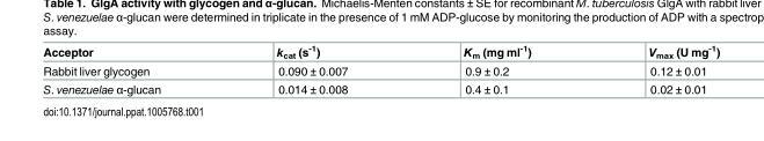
<table><thead><tr><td>Acceptor</td><td>k<sub>cat</sub> (s<sup>-1</sup>)</td><td>K<sub>m</sub> (mg ml<sup>-1</sup>)</td><td>V<sub>max</sub> (U mg<sup>-1</sup>)</td></tr></thead><tbody><tr><td>Rabbit liver glycogen</td><td>0.090 ± 0.007</td><td>0.9 ± 0.2</td><td>0.12 ± 0.01</td></tr><tr><td>S. venezuelae α-glucan</td><td>0.014 ± 0.008</td><td>0.4 ± 0.1</td><td>0.02 ± 0.01</td></tr></tbody></table>